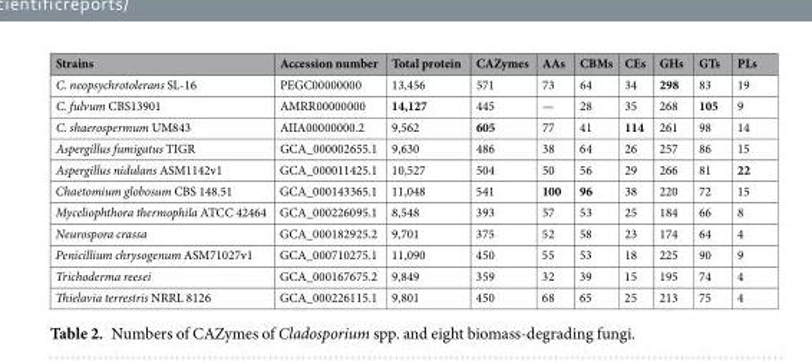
<table><thead><tr><td>Strains</td><td>Accession number</td><td>Total protein</td><td>CAZymes</td><td>AAs</td><td>CBMs</td><td>CEs</td><td>GHs</td><td>GTs</td><td>PLs</td></tr></thead><tbody><tr><td>C. neopsychrotolerans SL-16</td><td>PEGC00000000</td><td>13,456</td><td>571</td><td>73</td><td>64</td><td>34</td><td>298</td><td>83</td><td>19</td></tr><tr><td>C. fulvum CBS13901</td><td>AMRR00000000</td><td>14,127</td><td>445</td><td>—</td><td>28</td><td>35</td><td>268</td><td>105</td><td>9</td></tr><tr><td>C. shaerospermum UM843</td><td>AIIA00000000.2</td><td>9,562</td><td>605</td><td>77</td><td>41</td><td>114</td><td>261</td><td>98</td><td>14</td></tr><tr><td>Aspergillus fumigatus TIGR</td><td>GCA_000002655.1</td><td>9,630</td><td>486</td><td>38</td><td>64</td><td>26</td><td>257</td><td>86</td><td>15</td></tr><tr><td>Aspergillus nidulans ASM1142v1</td><td>GCA_000011425.1</td><td>10,527</td><td>504</td><td>50</td><td>56</td><td>29</td><td>266</td><td>81</td><td>22</td></tr><tr><td>Chaetomium globosum CBS 148.51</td><td>GCA_000143365.1</td><td>11,048</td><td>541</td><td>100</td><td>96</td><td>38</td><td>220</td><td>72</td><td>15</td></tr><tr><td>Myceliophthora thermophila ATCC 42464</td><td>GCA_000226095.1</td><td>8,548</td><td>393</td><td>57</td><td>53</td><td>25</td><td>184</td><td>66</td><td>8</td></tr><tr><td>Neurospora crassa</td><td>GCA_000182925.2</td><td>9,701</td><td>375</td><td>52</td><td>58</td><td>23</td><td>174</td><td>64</td><td>4</td></tr><tr><td>Penicillium chrysogenum ASM71027v1</td><td>GCA_000710275.1</td><td>11,090</td><td>450</td><td>55</td><td>53</td><td>18</td><td>225</td><td>90</td><td>9</td></tr><tr><td>Trichoderma reesei</td><td>GCA_000167675.2</td><td>9,849</td><td>359</td><td>32</td><td>39</td><td>15</td><td>195</td><td>74</td><td>4</td></tr><tr><td>Thielavia terrestris NRRL 8126</td><td>GCA_000226115.1</td><td>9,801</td><td>450</td><td>68</td><td>65</td><td>25</td><td>213</td><td>75</td><td>4</td></tr></tbody></table>